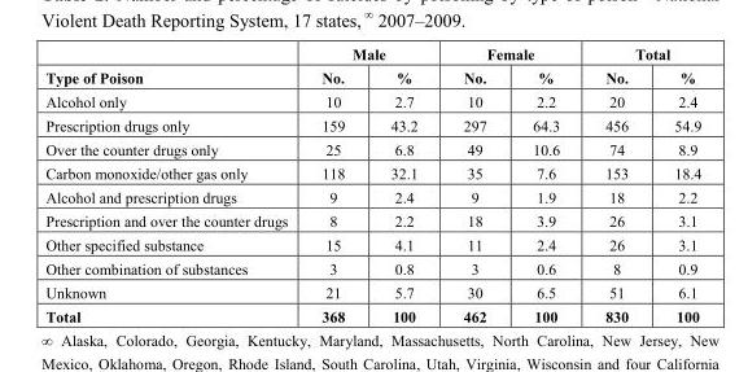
<table><thead><tr><td rowspan="2">Type of Poison</td><td colspan="2">Male</td><td colspan="2">Female</td><td colspan="2">Total</td></tr><tr><td>No.</td><td>%</td><td>No.</td><td>%</td><td>No.</td><td>%</td></tr></thead><tbody><tr><td>Alcohol only</td><td>10</td><td>2.7</td><td>10</td><td>2.2</td><td>20</td><td>2.4</td></tr><tr><td>Prescription drugs only</td><td>159</td><td>43.2</td><td>297</td><td>64.3</td><td>456</td><td>54.9</td></tr><tr><td>Over the counter drugs only</td><td>25</td><td>6.8</td><td>49</td><td>10.6</td><td>74</td><td>8.9</td></tr><tr><td>Carbon monoxide/other gas only</td><td>118</td><td>32.1</td><td>35</td><td>7.6</td><td>153</td><td>18.4</td></tr><tr><td>Alcohol and prescription drugs</td><td>9</td><td>2.4</td><td>9</td><td>1.9</td><td>18</td><td>2.2</td></tr><tr><td>Prescription and over the counter drugs</td><td>8</td><td>2.2</td><td>18</td><td>3.9</td><td>26</td><td>3.1</td></tr><tr><td>Other specified substance</td><td>15</td><td>4.1</td><td>11</td><td>2.4</td><td>26</td><td>3.1</td></tr><tr><td>Other combination of substances</td><td>3</td><td>0.8</td><td>3</td><td>0.6</td><td>8</td><td>0.9</td></tr><tr><td>Unknown</td><td>21</td><td>5.7</td><td>30</td><td>6.5</td><td>51</td><td>6.1</td></tr><tr><td>Total</td><td>368</td><td>100</td><td>462</td><td>100</td><td>830</td><td>100</td></tr></tbody></table>